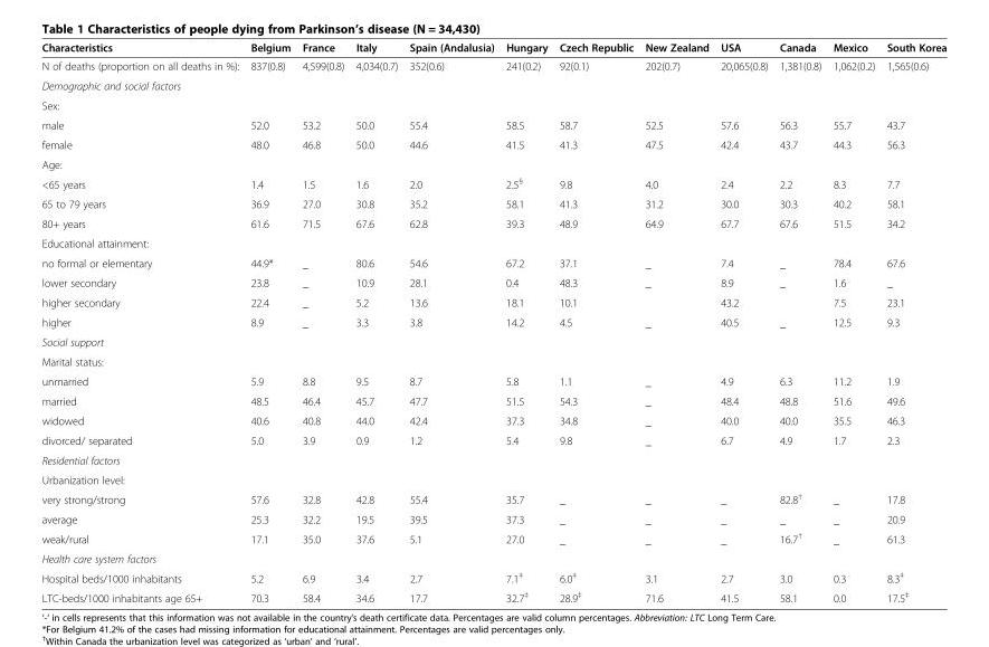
<table><thead><tr><td>Characteristics</td><td>Belgium</td><td>France</td><td>Italy</td><td>Spain (Andalusia)</td><td>Hungary</td><td>Czech Republic</td><td>New Zealand</td><td>USA</td><td>Canada</td><td>Mexico</td><td>South Korea</td></tr></thead><tbody><tr><td>N of deaths (proportion on all deaths in %):</td><td>837(0.8)</td><td>4,599(0.8)</td><td>4,034(0.7)</td><td>352(0.6)</td><td>241(0.2)</td><td>92(0.1)</td><td>202(0.7)</td><td>20,065(0.8)</td><td>1,381(0.8)</td><td>1,062(0.2)</td><td>1,565(0.6)</td></tr><tr><td colspan="12">Demographic and social factors</td></tr><tr><td colspan="12">Sex:</td></tr><tr><td>male</td><td>52.0</td><td>53.2</td><td>50.0</td><td>55.4</td><td>58.5</td><td>58.7</td><td>52.5</td><td>57.6</td><td>56.3</td><td>55.7</td><td>43.7</td></tr><tr><td>female</td><td>48.0</td><td>46.8</td><td>50.0</td><td>44.6</td><td>41.5</td><td>41.3</td><td>47.5</td><td>42.4</td><td>43.7</td><td>44.3</td><td>56.3</td></tr><tr><td colspan="12">Age:</td></tr><tr><td>&lt;65 years</td><td>1.4</td><td>1.5</td><td>1.6</td><td>2.0</td><td>2.5<sup>§</sup></td><td>9.8</td><td>4.0</td><td>2.4</td><td>2.2</td><td>8.3</td><td>7.7</td></tr><tr><td>65 to 79 years</td><td>36.9</td><td>27.0</td><td>30.8</td><td>35.2</td><td>58.1</td><td>41.3</td><td>31.2</td><td>30.0</td><td>30.3</td><td>40.2</td><td>58.1</td></tr><tr><td>80+ years</td><td>61.6</td><td>71.5</td><td>67.6</td><td>62.8</td><td>39.3</td><td>48.9</td><td>64.9</td><td>67.7</td><td>67.6</td><td>51.5</td><td>34.2</td></tr><tr><td colspan="12">Educational attainment:</td></tr><tr><td>no formal or elementary</td><td>44.9*</td><td>_</td><td>80.6</td><td>54.6</td><td>67.2</td><td>37.1</td><td>_</td><td>7.4</td><td>_</td><td>78.4</td><td>67.6</td></tr><tr><td>lower secondary</td><td>23.8</td><td>_</td><td>10.9</td><td>28.1</td><td>0.4</td><td>48.3</td><td>_</td><td>8.9</td><td>_</td><td>1.6</td><td>_</td></tr><tr><td>higher secondary</td><td>22.4</td><td>_</td><td>5.2</td><td>13.6</td><td>18.1</td><td>10.1</td><td></td><td>43.2</td><td></td><td>7.5</td><td>23.1</td></tr><tr><td>higher</td><td>8.9</td><td>_</td><td>3.3</td><td>3.8</td><td>14.2</td><td>4.5</td><td>_</td><td>40.5</td><td>_</td><td>12.5</td><td>9.3</td></tr><tr><td colspan="12">Social support</td></tr><tr><td colspan="12">Marital status:</td></tr><tr><td>unmarried</td><td>5.9</td><td>8.8</td><td>9.5</td><td>8.7</td><td>5.8</td><td>1.1</td><td>_</td><td>4.9</td><td>6.3</td><td>11.2</td><td>1.9</td></tr><tr><td>married</td><td>48.5</td><td>46.4</td><td>45.7</td><td>47.7</td><td>51.5</td><td>54.3</td><td>_</td><td>48.4</td><td>48.8</td><td>51.6</td><td>49.6</td></tr><tr><td>widowed</td><td>40.6</td><td>40.8</td><td>44.0</td><td>42.4</td><td>37.3</td><td>34.8</td><td>_</td><td>40.0</td><td>40.0</td><td>35.5</td><td>46.3</td></tr><tr><td>divorced/ separated</td><td>5.0</td><td>3.9</td><td>0.9</td><td>1.2</td><td>5.4</td><td>9.8</td><td>_</td><td>6.7</td><td>4.9</td><td>1.7</td><td>2.3</td></tr><tr><td colspan="12">Residential factors</td></tr><tr><td colspan="12">Urbanization level:</td></tr><tr><td>very strong/strong</td><td>57.6</td><td>32.8</td><td>42.8</td><td>55.4</td><td>35.7</td><td>_</td><td>_</td><td>_</td><td>82.8<sup>†</sup></td><td>_</td><td>17.8</td></tr><tr><td>average</td><td>25.3</td><td>32.2</td><td>19.5</td><td>39.5</td><td>37.3</td><td>_</td><td>_</td><td>_</td><td>_</td><td>_</td><td>20.9</td></tr><tr><td>weak/rural</td><td>17.1</td><td>35.0</td><td>37.6</td><td>5.1</td><td>27.0</td><td>_</td><td>_</td><td>_</td><td>16.7<sup>†</sup></td><td>_</td><td>61.3</td></tr><tr><td colspan="12">Health care system factors</td></tr><tr><td>Hospital beds/1000 inhabitants</td><td>5.2</td><td>6.9</td><td>3.4</td><td>2.7</td><td>7.1<sup>‡</sup></td><td>6.0<sup>‡</sup></td><td>3.1</td><td>2.7</td><td>3.0</td><td>0.3</td><td>8.3<sup>‡</sup></td></tr><tr><td>LTC-beds/1000 inhabitants age 65+</td><td>70.3</td><td>58.4</td><td>34.6</td><td>17.7</td><td>32.7<sup>‡</sup></td><td>28.9<sup>‡</sup></td><td>71.6</td><td>41.5</td><td>58.1</td><td>0.0</td><td>17.5<sup>‡</sup></td></tr></tbody></table>